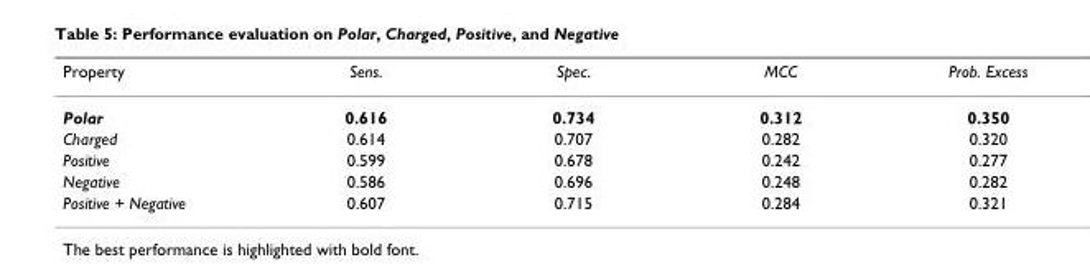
<table><thead><tr><td>Property</td><td>Sens.</td><td>Spec.</td><td>MCC</td><td>Prob. Excess</td></tr></thead><tbody><tr><td>Polar</td><td>0.616</td><td>0.734</td><td>0.312</td><td>0.350</td></tr><tr><td>Charged</td><td>0.614</td><td>0.707</td><td>0.282</td><td>0.320</td></tr><tr><td>Positive</td><td>0.599</td><td>0.678</td><td>0.242</td><td>0.277</td></tr><tr><td>Negative</td><td>0.586</td><td>0.696</td><td>0.248</td><td>0.282</td></tr><tr><td>Positive + Negative</td><td>0.607</td><td>0.715</td><td>0.284</td><td>0.321</td></tr></tbody></table>